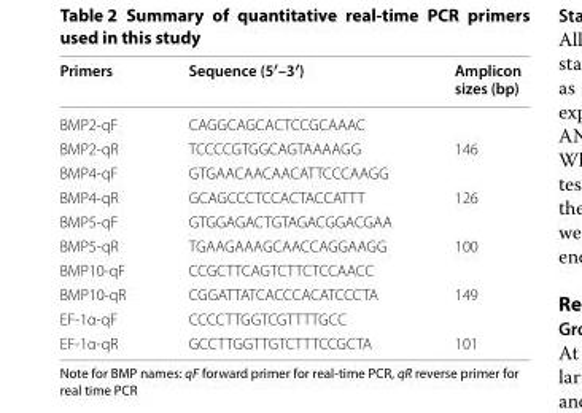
<table><thead><tr><td>Primers</td><td>Sequence (5′–3′)</td><td>Amplicon sizes (bp)</td></tr></thead><tbody><tr><td>BMP2-qF</td><td>CAGGCAGCACTCCGCAAAC</td><td></td></tr><tr><td>BMP2-qR</td><td>TCCCCGTGGCAGTAAAAGG</td><td>146</td></tr><tr><td>BMP4-qF</td><td>GTGAACAACAACATTCCCAAGG</td><td></td></tr><tr><td>BMP4-qR</td><td>GCAGCCCTCCACTACCATTT</td><td>126</td></tr><tr><td>BMP5-qF</td><td>GTGGAGACTGTAGACGGACGAA</td><td></td></tr><tr><td>BMP5-qR</td><td>TGAAGAAAGCAACCAGGAAGG</td><td>100</td></tr><tr><td>BMP10-qF</td><td>CCGCTTCAGTCTTCTCCAACC</td><td></td></tr><tr><td>BMP10-qR</td><td>CGGATTATCACCCACATCCCTA</td><td>149</td></tr><tr><td>EF-1α-qF</td><td>CCCCTTGGTCGTTTTGCC</td><td></td></tr><tr><td>EF-1α-qR</td><td>GCCTTGGTTGTCTTTCCGCTA</td><td>101</td></tr></tbody></table>